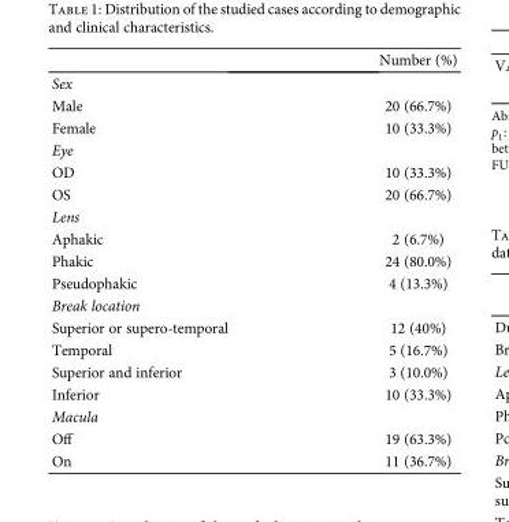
<table><thead><tr><td></td><td>Number (%)</td></tr></thead><tbody><tr><td colspan="2">Sex</td></tr><tr><td>Male</td><td>20 (66.7%)</td></tr><tr><td>Female</td><td>10 (33.3%)</td></tr><tr><td colspan="2">Eye</td></tr><tr><td>OD</td><td>10 (33.3%)</td></tr><tr><td>OS</td><td>20 (66.7%)</td></tr><tr><td colspan="2">Lens</td></tr><tr><td>Aphakic</td><td>2 (6.7%)</td></tr><tr><td>Phakic</td><td>24 (80.0%)</td></tr><tr><td>Pseudophakic</td><td>4 (13.3%)</td></tr><tr><td colspan="2">Break location</td></tr><tr><td>Superior or supero-temporal</td><td>12 (40%)</td></tr><tr><td>Temporal</td><td>5 (16.7%)</td></tr><tr><td>Superior and inferior</td><td>3 (10.0%)</td></tr><tr><td>Inferior</td><td>10 (33.3%)</td></tr><tr><td colspan="2">Macula</td></tr><tr><td>Off</td><td>19 (63.3%)</td></tr><tr><td>On</td><td>11 (36.7%)</td></tr></tbody></table>